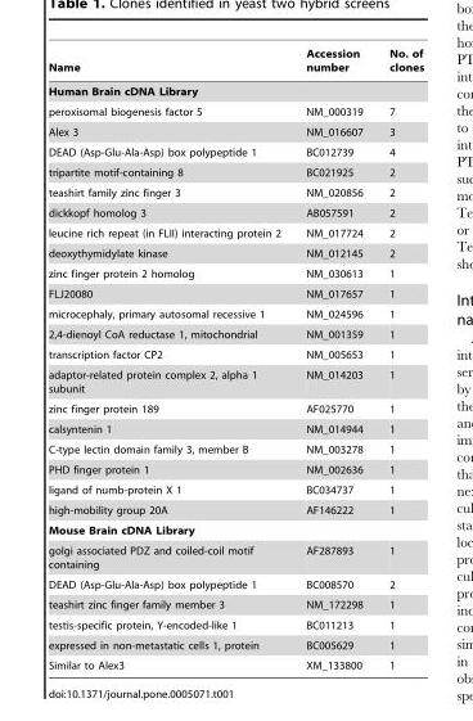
<table><thead><tr><td>Name</td><td>Accession number</td><td>No. of clones</td></tr></thead><tbody><tr><td colspan="3">Human Brain cDNA Library</td></tr><tr><td>peroxisomal biogenesis factor 5</td><td>NM_000319</td><td>7</td></tr><tr><td>Alex 3</td><td>NM_016607</td><td>3</td></tr><tr><td>DEAD (Asp-Glu-Ala-Asp) box polypeptide 1</td><td>BC012739</td><td>4</td></tr><tr><td>tripartite motif-containing 8</td><td>BC021925</td><td>2</td></tr><tr><td>teashirt family zinc finger 3</td><td>NM_020856</td><td>2</td></tr><tr><td>dickkopf homolog 3</td><td>AB057591</td><td>2</td></tr><tr><td>leucine rich repeat (in FLII) interacting protein 2</td><td>NM_017724</td><td>2</td></tr><tr><td>deoxythymidylate kinase</td><td>NM_012145</td><td>2</td></tr><tr><td>zinc finger protein 2 homolog</td><td>NM_030613</td><td>1</td></tr><tr><td>FLJ20080</td><td>NM_017657</td><td>1</td></tr><tr><td>microcephaly, primary autosomal recessive 1</td><td>NM_024596</td><td>1</td></tr><tr><td>2,4-dienoyl CoA reductase 1, mitochondrial</td><td>NM_001359</td><td>1</td></tr><tr><td>transcription factor CP2</td><td>NM_005653</td><td>1</td></tr><tr><td>adaptor-related protein complex 2, alpha 1 subunit</td><td>NM_014203</td><td>1</td></tr><tr><td>zinc finger protein 189</td><td>AF025770</td><td>1</td></tr><tr><td>calsyntenin 1</td><td>NM_014944</td><td>1</td></tr><tr><td>C-type lectin domain family 3, member B</td><td>NM_003278</td><td>1</td></tr><tr><td>PHD finger protein 1</td><td>NM_002636</td><td>1</td></tr><tr><td>ligand of numb-protein X 1</td><td>BC034737</td><td>1</td></tr><tr><td>high-mobility group 20A</td><td>AF146222</td><td>1</td></tr><tr><td colspan="3">Mouse Brain cDNA Library</td></tr><tr><td>golgi associated PDZ and coiled-coil motif containing</td><td>AF287893</td><td>1</td></tr><tr><td>DEAD (Asp-Glu-Ala-Asp) box polypeptide 1</td><td>BC008570</td><td>2</td></tr><tr><td>teashirt zinc finger family member 3</td><td>NM_172298</td><td>1</td></tr><tr><td>testis-specific protein, Y-encoded-like 1</td><td>BC011213</td><td>1</td></tr><tr><td>expressed in non-metastatic cells 1, protein</td><td>BC005629</td><td>1</td></tr><tr><td>Similar to Alex3</td><td>XM_133800</td><td>1</td></tr></tbody></table>